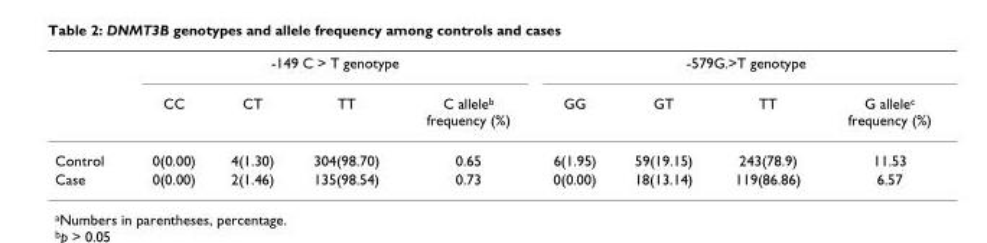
<table><thead><tr><td rowspan="2"></td><td colspan="4">-149 C &gt; T genotype</td><td colspan="4">-579G.&gt;T genotype</td></tr><tr><td>CC</td><td>CT</td><td>TT</td><td>C allele<sup>b</sup> frequency (%)</td><td>GG</td><td>GT</td><td>TT</td><td>G allele<sup>c</sup> frequency (%)</td></tr></thead><tbody><tr><td>Control</td><td>0(0.00)</td><td>4(1.30)</td><td>304(98.70)</td><td>0.65</td><td>6(1.95)</td><td>59(19.15)</td><td>243(78.9)</td><td>11.53</td></tr><tr><td>Case</td><td>0(0.00)</td><td>2(1.46)</td><td>135(98.54)</td><td>0.73</td><td>0(0.00)</td><td>18(13.14)</td><td>119(86.86)</td><td>6.57</td></tr></tbody></table>